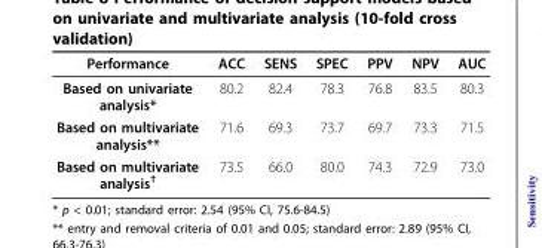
<table><thead><tr><td>Performance</td><td>ACC</td><td>SENS</td><td>SPEC</td><td>PPV</td><td>NPV</td><td>AUC</td></tr></thead><tbody><tr><td>Based on univariate analysis*</td><td>80.2</td><td>82.4</td><td>78.3</td><td>76.8</td><td>83.5</td><td>80.3</td></tr><tr><td>Based on multivariate analysis**</td><td>71.6</td><td>69.3</td><td>73.7</td><td>69.7</td><td>73.3</td><td>71.5</td></tr><tr><td>Based on multivariate analysis<sup>†</sup></td><td>73.5</td><td>66.0</td><td>80.0</td><td>74.3</td><td>72.9</td><td>73.0</td></tr></tbody></table>